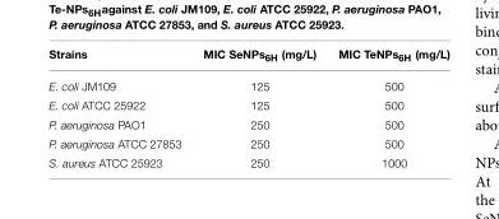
<table><thead><tr><td>Strains</td><td>MIC SeNPs<sub>6H</sub> (mg/L)</td><td>MIC TeNPs<sub>6H</sub> (mg/L)</td></tr></thead><tbody><tr><td>E. coli JM109</td><td>125</td><td>500</td></tr><tr><td>E. coli ATCC 25922</td><td>125</td><td>500</td></tr><tr><td>P. aeruginosa PAO1</td><td>250</td><td>500</td></tr><tr><td>P. aeruginosa ATCC 27853</td><td>250</td><td>500</td></tr><tr><td>S. aureus ATCC 25923</td><td>250</td><td>1000</td></tr></tbody></table>